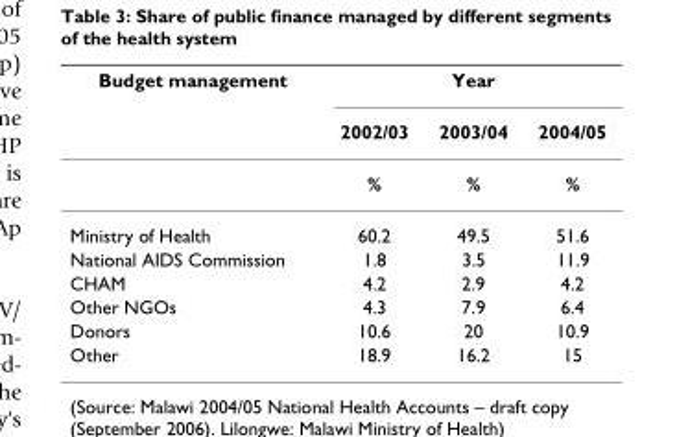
<table><thead><tr><td rowspan="2">Budget management</td><td colspan="3">Year</td></tr><tr><td>2002/03</td><td>2003/04</td><td>2004/05</td></tr></thead><tbody><tr><td></td><td>%</td><td>%</td><td>%</td></tr><tr><td>Ministry of Health</td><td>60.2</td><td>49.5</td><td>51.6</td></tr><tr><td>National AIDS Commission</td><td>1.8</td><td>3.5</td><td>11.9</td></tr><tr><td>CHAM</td><td>4.2</td><td>2.9</td><td>4.2</td></tr><tr><td>Other NGOs</td><td>4.3</td><td>7.9</td><td>6.4</td></tr><tr><td>Donors</td><td>10.6</td><td>20</td><td>10.9</td></tr><tr><td>Other</td><td>18.9</td><td>16.2</td><td>15</td></tr></tbody></table>